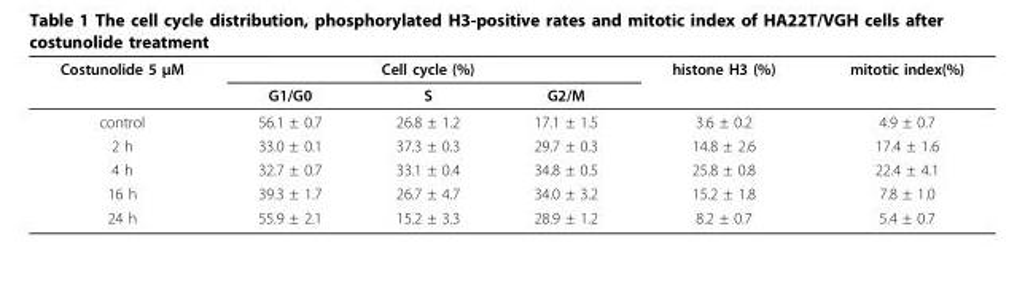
<table><thead><tr><td rowspan="2">Costunolide 5 μM</td><td colspan="3">Cell cycle (%)</td><td rowspan="2">histone H3 (%)</td><td rowspan="2">mitotic index(%)</td></tr><tr><td>G1/G0</td><td>S</td><td>G2/M</td></tr></thead><tbody><tr><td>control</td><td>56.1 ± 0.7</td><td>26.8 ± 1.2</td><td>17.1 ± 1.5</td><td>3.6 ± 0.2</td><td>4.9 ± 0.7</td></tr><tr><td>2 h</td><td>33.0 ± 0.1</td><td>37.3 ± 0.3</td><td>29.7 ± 0.3</td><td>14.8 ± 2.6</td><td>17.4 ± 1.6</td></tr><tr><td>4 h</td><td>32.7 ± 0.7</td><td>33.1 ± 0.4</td><td>34.8 ± 0.5</td><td>25.8 ± 0.8</td><td>22.4 ± 4.1</td></tr><tr><td>16 h</td><td>39.3 ± 1.7</td><td>26.7 ± 4.7</td><td>34.0 ± 3.2</td><td>15.2 ± 1.8</td><td>7.8 ± 1.0</td></tr><tr><td>24 h</td><td>55.9 ± 2.1</td><td>15.2 ± 3.3</td><td>28.9 ± 1.2</td><td>8.2 ± 0.7</td><td>5.4 ± 0.7</td></tr></tbody></table>